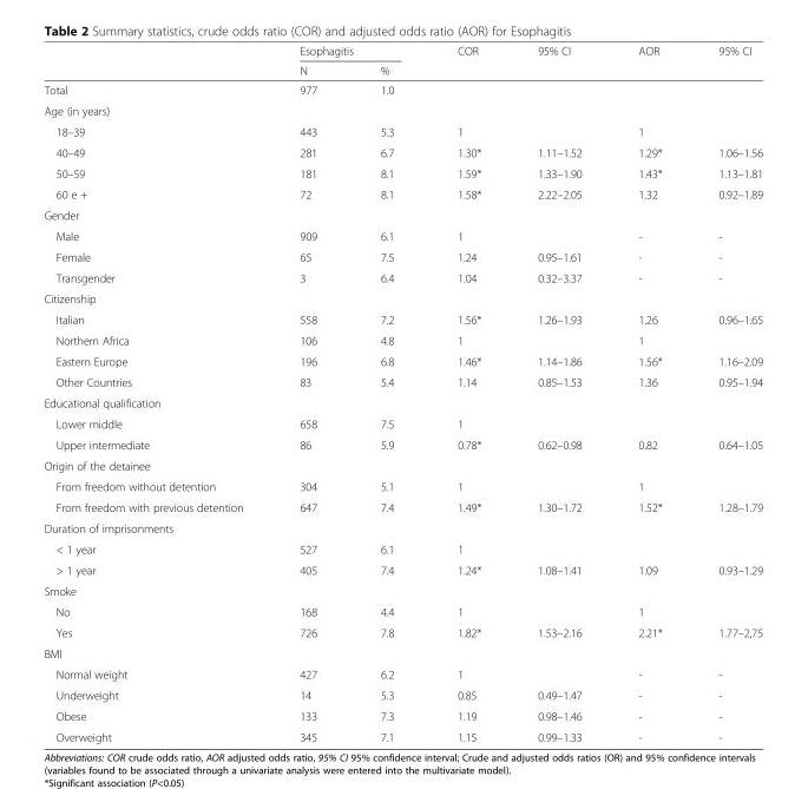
<table><thead><tr><td rowspan="2"></td><td colspan="2">Esophagitis</td><td rowspan="2">COR</td><td rowspan="2">95% CI</td><td rowspan="2">AOR</td><td rowspan="2">95% CI</td></tr><tr><td>N</td><td>%</td></tr></thead><tbody><tr><td>Total</td><td>977</td><td>1.0</td><td></td><td></td><td></td><td></td></tr><tr><td colspan="7">Age (in years)</td></tr><tr><td>18–39</td><td>443</td><td>5.3</td><td>1</td><td></td><td>1</td><td></td></tr><tr><td>40–49</td><td>281</td><td>6.7</td><td>1.30*</td><td>1.11–1.52</td><td>1.29*</td><td>1.06–1.56</td></tr><tr><td>50–59</td><td>181</td><td>8.1</td><td>1.59*</td><td>1.33–1.90</td><td>1.43*</td><td>1.13–1.81</td></tr><tr><td>60 e +</td><td>72</td><td>8.1</td><td>1.58*</td><td>2.22–2.05</td><td>1.32</td><td>0.92–1.89</td></tr><tr><td colspan="7">Gender</td></tr><tr><td>Male</td><td>909</td><td>6.1</td><td>1</td><td></td><td>-</td><td>-</td></tr><tr><td>Female</td><td>65</td><td>7.5</td><td>1.24</td><td>0.95–1.61</td><td>-</td><td>-</td></tr><tr><td>Transgender</td><td>3</td><td>6.4</td><td>1.04</td><td>0.32–3.37</td><td>-</td><td>-</td></tr><tr><td colspan="7">Citizenship</td></tr><tr><td>Italian</td><td>558</td><td>7.2</td><td>1.56*</td><td>1.26–1.93</td><td>1.26</td><td>0.96–1.65</td></tr><tr><td>Northern Africa</td><td>106</td><td>4.8</td><td>1</td><td></td><td>1</td><td></td></tr><tr><td>Eastern Europe</td><td>196</td><td>6.8</td><td>1.46*</td><td>1.14–1.86</td><td>1.56*</td><td>1.16–2.09</td></tr><tr><td>Other Countries</td><td>83</td><td>5.4</td><td>1.14</td><td>0.85–1.53</td><td>1.36</td><td>0.95–1.94</td></tr><tr><td colspan="7">Educational qualification</td></tr><tr><td>Lower middle</td><td>658</td><td>7.5</td><td>1</td><td></td><td></td><td></td></tr><tr><td>Upper intermediate</td><td>86</td><td>5.9</td><td>0.78*</td><td>0.62–0.98</td><td>0.82</td><td>0.64–1.05</td></tr><tr><td colspan="7">Origin of the detainee</td></tr><tr><td>From freedom without detention</td><td>304</td><td>5.1</td><td>1</td><td></td><td>1</td><td></td></tr><tr><td>From freedom with previous detention</td><td>647</td><td>7.4</td><td>1.49*</td><td>1.30–1.72</td><td>1.52*</td><td>1.28–1.79</td></tr><tr><td colspan="7">Duration of imprisonments</td></tr><tr><td>&lt; 1 year</td><td>527</td><td>6.1</td><td>1</td><td></td><td></td><td></td></tr><tr><td>&gt; 1 year</td><td>405</td><td>7.4</td><td>1.24*</td><td>1.08–1.41</td><td>1.09</td><td>0.93–1.29</td></tr><tr><td colspan="7">Smoke</td></tr><tr><td>No</td><td>168</td><td>4.4</td><td>1</td><td></td><td>1</td><td></td></tr><tr><td>Yes</td><td>726</td><td>7.8</td><td>1.82*</td><td>1.53–2.16</td><td>2.21*</td><td>1.77–2,75</td></tr><tr><td colspan="7">BMI</td></tr><tr><td>Normal weight</td><td>427</td><td>6.2</td><td>1</td><td></td><td>-</td><td>-</td></tr><tr><td>Underweight</td><td>14</td><td>5.3</td><td>0.85</td><td>0.49–1.47</td><td>-</td><td>-</td></tr><tr><td>Obese</td><td>133</td><td>7.3</td><td>1.19</td><td>0.98–1.46</td><td>-</td><td>-</td></tr><tr><td>Overweight</td><td>345</td><td>7.1</td><td>1.15</td><td>0.99–1.33</td><td>-</td><td>-</td></tr></tbody></table>